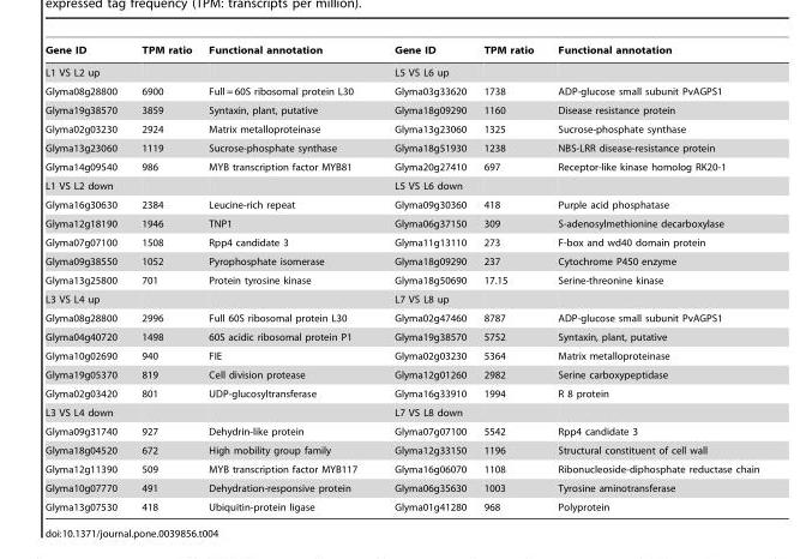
<table><thead><tr><td>Gene ID</td><td>TPM ratio</td><td>Functional annotation</td><td>Gene ID</td><td>TPM ratio</td><td>Functional annotation</td></tr></thead><tbody><tr><td>L1 VS L2 up</td><td></td><td></td><td>L5 VS L6 up</td><td></td><td></td></tr><tr><td>Glyma08g28800</td><td>6900</td><td>Full = 60S ribosomal protein L30</td><td>Glyma03g33620</td><td>1738</td><td>ADP-glucose small subunit PvAGPS1</td></tr><tr><td>Glyma19g38570</td><td>3859</td><td>Syntaxin, plant, putative</td><td>Glyma18g09290</td><td>1160</td><td>Disease resistance protein</td></tr><tr><td>Glyma02g03230</td><td>2924</td><td>Matrix metalloproteinase</td><td>Glyma13g23060</td><td>1325</td><td>Sucrose-phosphate synthase</td></tr><tr><td>Glyma13g23060</td><td>1119</td><td>Sucrose-phosphate synthase</td><td>Glyma18g51930</td><td>1238</td><td>NBS-LRR disease-resistance protein</td></tr><tr><td>Glyma14g09540</td><td>986</td><td>MYB transcription factor MYB81</td><td>Glyma20g27410</td><td>697</td><td>Receptor-like kinase homolog RK20-1</td></tr><tr><td>L1 VS L2 down</td><td></td><td></td><td>L5 VS L6 down</td><td></td><td></td></tr><tr><td>Glyma16g30630</td><td>2384</td><td>Leucine-rich repeat</td><td>Glyma09g30360</td><td>418</td><td>Purple acid phosphatase</td></tr><tr><td>Glyma12g18190</td><td>1946</td><td>TNP1</td><td>Glyma06g37150</td><td>309</td><td>S-adenosylmethionine decarboxylase</td></tr><tr><td>Glyma07g07100</td><td>1508</td><td>Rpp4 candidate 3</td><td>Glyma11g13110</td><td>273</td><td>F-box and wd40 domain protein</td></tr><tr><td>Glyma09g38550</td><td>1052</td><td>Pyrophosphate isomerase</td><td>Glyma18g09290</td><td>237</td><td>Cytochrome P450 enzyme</td></tr><tr><td>Glyma13g25800</td><td>701</td><td>Protein tyrosine kinase</td><td>Glyma18g50690</td><td>17.15</td><td>Serine-threonine kinase</td></tr><tr><td>L3 VS L4 up</td><td></td><td></td><td>L7 VS L8 up</td><td></td><td></td></tr><tr><td>Glyma08g28800</td><td>2996</td><td>Full 60S ribosomal protein L30</td><td>Glyma02g47460</td><td>8787</td><td>ADP-glucose small subunit PvAGPS1</td></tr><tr><td>Glyma04g40720</td><td>1498</td><td>60S acidic ribosomal protein P1</td><td>Glyma19g38570</td><td>5752</td><td>Syntaxin, plant, putative</td></tr><tr><td>Glyma10g02690</td><td>940</td><td>FIE</td><td>Glyma02g03230</td><td>5364</td><td>Matrix metalloproteinase</td></tr><tr><td>Glyma19g05370</td><td>819</td><td>Cell division protease</td><td>Glyma12g01260</td><td>2982</td><td>Serine carboxypeptidase</td></tr><tr><td>Glyma02g03420</td><td>801</td><td>UDP-glucosyltransferase</td><td>Glyma16g33910</td><td>1994</td><td>R 8 protein</td></tr><tr><td>L3 VS L4 down</td><td></td><td></td><td>L7 VS L8 down</td><td></td><td></td></tr><tr><td>Glyma09g31740</td><td>927</td><td>Dehydrin-like protein</td><td>Glyma07g07100</td><td>5542</td><td>Rpp4 candidate 3</td></tr><tr><td>Glyma18g04520</td><td>672</td><td>High mobility group family</td><td>Glyma12g33150</td><td>1196</td><td>Structural constituent of cell wall</td></tr><tr><td>Glyma12g11390</td><td>509</td><td>MYB transcription factor MYB117</td><td>Glyma16g06070</td><td>1108</td><td>Ribonucleoside-diphosphate reductase chain</td></tr><tr><td>Glyma10g07770</td><td>491</td><td>Dehydration-responsive protein</td><td>Glyma06g35630</td><td>1003</td><td>Tyrosine aminotransferase</td></tr><tr><td>Glyma13g07530</td><td>418</td><td>Ubiquitin-protein ligase</td><td>Glyma01g41280</td><td>968</td><td>Polyprotein</td></tr></tbody></table>